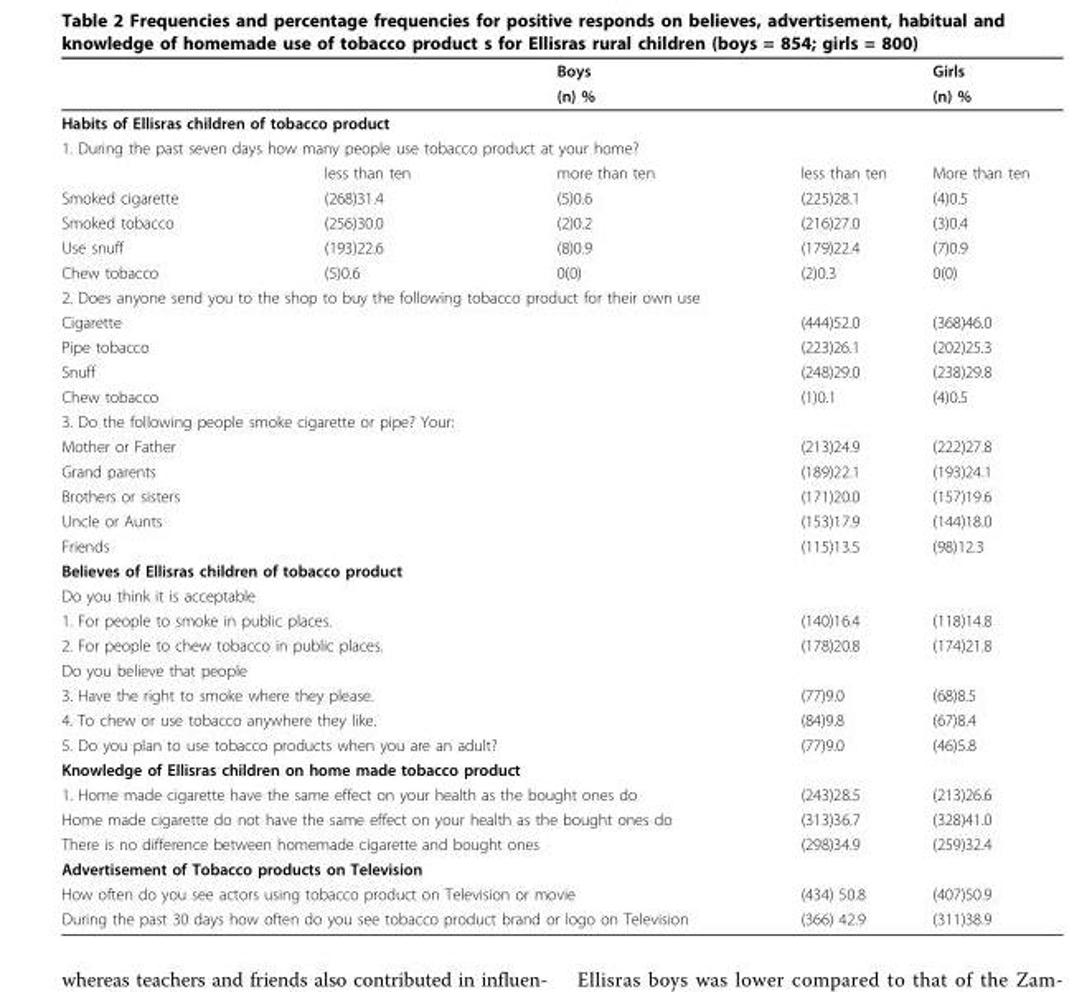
<table><thead><tr><td rowspan="2"></td><td rowspan="2"></td><td rowspan="2" colspan="2">Boys (n) %</td><td rowspan="2">Girls (n) %</td></tr><tr></tr><tr><td rowspan="2" colspan="5">Habits of Ellisras children of tobacco product 1. During the past seven days how many people use tobacco product at your home?</td></tr><tr></tr><tr><td></td><td>less than ten</td><td>more than ten</td><td>less than ten</td><td>More than ten</td></tr></thead><tbody><tr><td>Smoked cigarette</td><td>(268)31.4</td><td>(5)0.6</td><td>(225)28.1</td><td>(4)0.5</td></tr><tr><td>Smoked tobacco</td><td>(256)30.0</td><td>(2)0.2</td><td>(216)27.0</td><td>(3)0.4</td></tr><tr><td>Use snuff</td><td>(193)22.6</td><td>(8)0.9</td><td>(179)22.4</td><td>(7)0.9</td></tr><tr><td>Chew tobacco</td><td>(5)0.6</td><td>0(0)</td><td>(2)0.3</td><td>0(0)</td></tr><tr><td colspan="5">2. Does anyone send you to the shop to buy the following tobacco product for their own use</td></tr><tr><td colspan="3">Cigarette</td><td>(444)52.0</td><td>(368)46.0</td></tr><tr><td colspan="3">Pipe tobacco</td><td>(223)26.1</td><td>(202)25.3</td></tr><tr><td colspan="3">Snuff</td><td>(248)29.0</td><td>(238)29.8</td></tr><tr><td colspan="3">Chew tobacco</td><td>(1)0.1</td><td>(4)0.5</td></tr><tr><td colspan="5">3. Do the following people smoke cigarette or pipe? Your:</td></tr><tr><td colspan="3">Mother or Father</td><td>(213)24.9</td><td>(222)27.8</td></tr><tr><td colspan="3">Grand parents</td><td>(189)22.1</td><td>(193)24.1</td></tr><tr><td colspan="3">Brothers or sisters</td><td>(171)20.0</td><td>(157)19.6</td></tr><tr><td colspan="3">Uncle or Aunts</td><td>(153)17.9</td><td>(144)18.0</td></tr><tr><td colspan="3">Friends</td><td>(115)13.5</td><td>(98)12.3</td></tr><tr><td colspan="5">Believes of Ellisras children of tobacco product</td></tr><tr><td colspan="5">Do you think it is acceptable</td></tr><tr><td colspan="3">1. For people to smoke in public places.</td><td>(140)16.4</td><td>(118)14.8</td></tr><tr><td colspan="3">2. For people to chew tobacco in public places.</td><td>(178)20.8</td><td>(174)21.8</td></tr><tr><td colspan="5">Do you believe that people</td></tr><tr><td colspan="3">3. Have the right to smoke where they please.</td><td>(77)9.0</td><td>(68)8.5</td></tr><tr><td colspan="3">4. To chew or use tobacco anywhere they like.</td><td>(84)9.8</td><td>(67)8.4</td></tr><tr><td colspan="3">5. Do you plan to use tobacco products when you are an adult?</td><td>(77)9.0</td><td>(46)5.8</td></tr><tr><td colspan="5">Knowledge of Ellisras children on home made tobacco product</td></tr><tr><td colspan="3">1. Home made cigarette have the same effect on your health as the bought ones do</td><td>(243)28.5</td><td>(213)26.6</td></tr><tr><td colspan="3">Home made cigarette do not have the same effect on your health as the bought ones do</td><td>(313)36.7</td><td>(328)41.0</td></tr><tr><td colspan="3">There is no difference between homemade cigarette and bought ones</td><td>(298)34.9</td><td>(259)32.4</td></tr><tr><td colspan="5">Advertisement of Tobacco products on Television</td></tr><tr><td colspan="3">How often do you see actors using tobacco product on Television or movie</td><td>(434) 50.8</td><td>(407)50.9</td></tr><tr><td colspan="3">During the past 30 days how often do you see tobacco product brand or logo on Television</td><td>(366) 42.9</td><td>(311)38.9</td></tr></tbody></table>